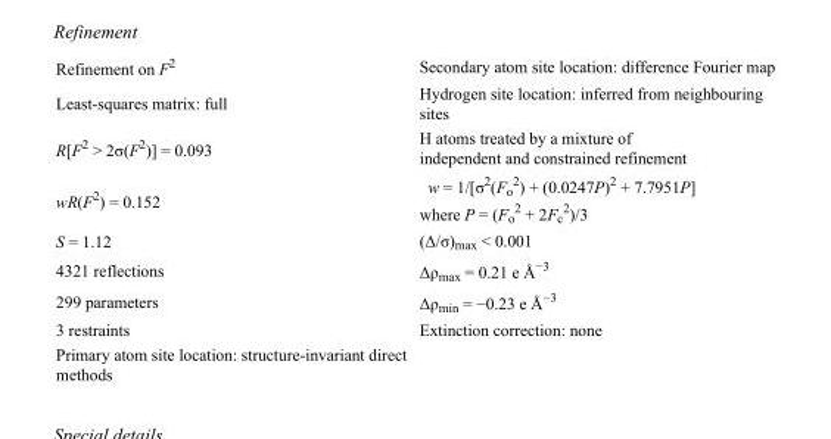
<table><tbody><tr><td>Refinement on F<sup>2</sup></td><td>Secondary atom site location: difference Fourier map</td></tr><tr><td>Least-squares matrix: full</td><td>Hydrogen site location: inferred from neighbouring sites</td></tr><tr><td>R[F<sup>2</sup> &gt; 2σ(F<sup>2</sup>)] = 0.093</td><td>H atoms treated by a mixture of independent and constrained refinement</td></tr><tr><td>wR(F<sup>2</sup>) = 0.152</td><td>w = 1/[σ<sup>2</sup>(F<sub>o</sub> <sup>2</sup>) + (0.0247P)<sup>2</sup> + 7.7951P] where P = (F<sub>o</sub> <sup>2</sup> + 2F<sub>c</sub> <sup>2</sup>)/3</td></tr><tr><td>S = 1.12</td><td>(Δ/σ)<sub>max</sub> &lt; 0.001</td></tr><tr><td>4321 reflections</td><td>Δρ<sub>max</sub> = 0.21 e Å<sup>−3</sup></td></tr><tr><td>299 parameters</td><td>Δρ<sub>min</sub> = −0.23 e Å<sup>−3</sup></td></tr><tr><td>3 restraints</td><td>Extinction correction: none</td></tr><tr><td>Primary atom site location: structure-invariant direct methods</td><td></td></tr></tbody></table>